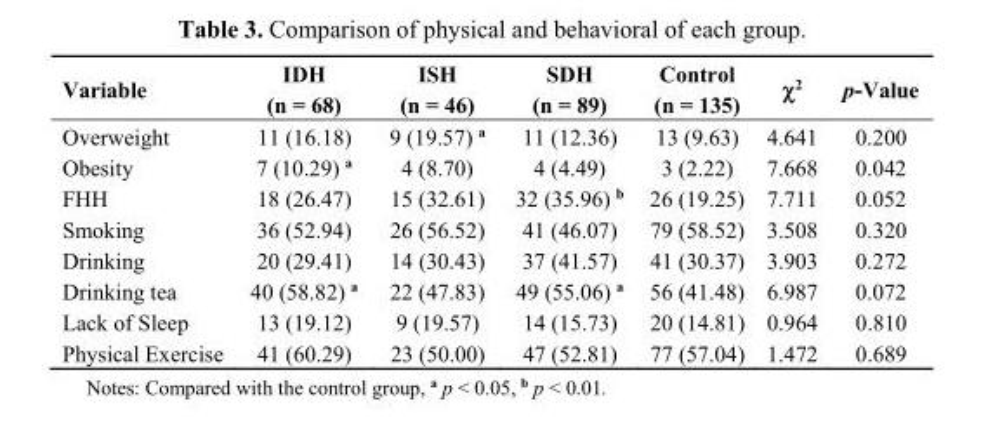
<table><thead><tr><td>Variable</td><td>IDH (n = 68)</td><td>ISH (n = 46)</td><td>SDH (n = 89)</td><td>Control (n = 135)</td><td>χ<sup>2</sup></td><td>p-Value</td></tr></thead><tbody><tr><td>Overweight</td><td>11 (16.18)</td><td>9 (19.57) <sup>a</sup></td><td>11 (12.36)</td><td>13 (9.63)</td><td>4.641</td><td>0.200</td></tr><tr><td>Obesity</td><td>7 (10.29) <sup>a</sup></td><td>4 (8.70)</td><td>4 (4.49)</td><td>3 (2.22)</td><td>7.668</td><td>0.042</td></tr><tr><td>FHH</td><td>18 (26.47)</td><td>15 (32.61)</td><td>32 (35.96) <sup>b</sup></td><td>26 (19.25)</td><td>7.711</td><td>0.052</td></tr><tr><td>Smoking</td><td>36 (52.94)</td><td>26 (56.52)</td><td>41 (46.07)</td><td>79 (58.52)</td><td>3.508</td><td>0.320</td></tr><tr><td>Drinking</td><td>20 (29.41)</td><td>14 (30.43)</td><td>37 (41.57)</td><td>41 (30.37)</td><td>3.903</td><td>0.272</td></tr><tr><td>Drinking tea</td><td>40 (58.82) <sup>a</sup></td><td>22 (47.83)</td><td>49 (55.06) <sup>a</sup></td><td>56 (41.48)</td><td>6.987</td><td>0.072</td></tr><tr><td>Lack of Sleep</td><td>13 (19.12)</td><td>9 (19.57)</td><td>14 (15.73)</td><td>20 (14.81)</td><td>0.964</td><td>0.810</td></tr><tr><td>Physical Exercise</td><td>41 (60.29)</td><td>23 (50.00)</td><td>47 (52.81)</td><td>77 (57.04)</td><td>1.472</td><td>0.689</td></tr></tbody></table>